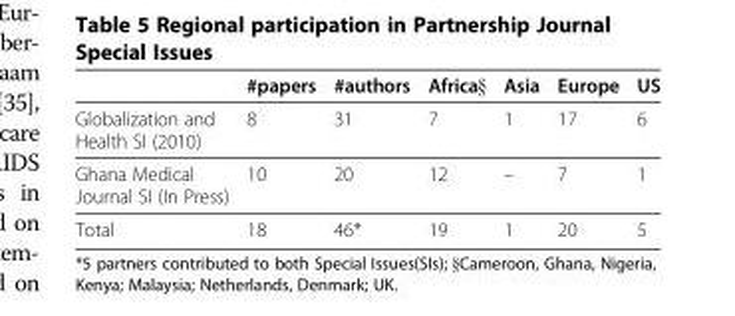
<table><thead><tr><td></td><td>#papers</td><td>#authors</td><td>Africa§</td><td>Asia</td><td>Europe</td><td>US</td></tr></thead><tbody><tr><td>Globalization and Health SI (2010)</td><td>8</td><td>31</td><td>7</td><td>1</td><td>17</td><td>6</td></tr><tr><td>Ghana Medical Journal SI (In Press)</td><td>10</td><td>20</td><td>12</td><td>–</td><td>7</td><td>1</td></tr><tr><td>Total</td><td>18</td><td>46*</td><td>19</td><td>1</td><td>20</td><td>5</td></tr></tbody></table>